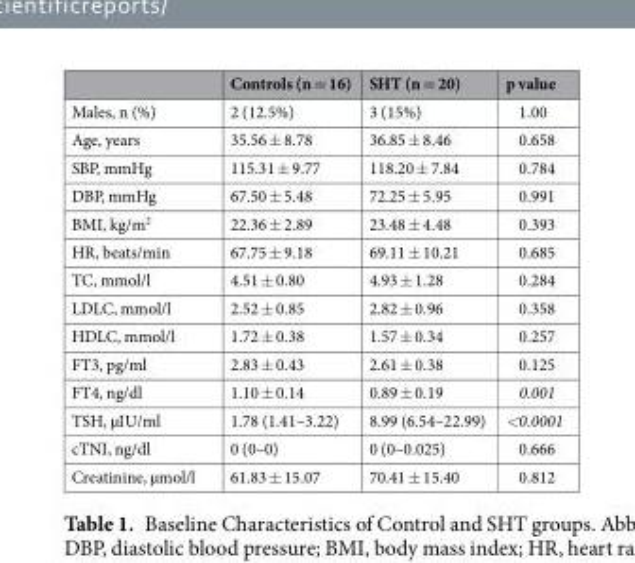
<table><thead><tr><td></td><td>Controls (n = 16)</td><td>SHT (n = 20)</td><td>p value</td></tr></thead><tbody><tr><td>Males, n (%)</td><td>2 (12.5%)</td><td>3 (15%)</td><td>1.00</td></tr><tr><td>Age, years</td><td>35.56 ± 8.78</td><td>36.85 ± 8.46</td><td>0.658</td></tr><tr><td>SBP, mmHg</td><td>115.31 ± 9.77</td><td>118.20 ± 7.84</td><td>0.784</td></tr><tr><td>DBP, mmHg</td><td>67.50 ± 5.48</td><td>72.25 ± 5.95</td><td>0.991</td></tr><tr><td>BMI, kg/m<sup>2</sup></td><td>22.36 ± 2.89</td><td>23.48 ± 4.48</td><td>0.393</td></tr><tr><td>HR, beats/min</td><td>67.75 ± 9.18</td><td>69.11 ± 10.21</td><td>0.685</td></tr><tr><td>TC, mmol/l</td><td>4.51 ± 0.80</td><td>4.93 ± 1.28</td><td>0.284</td></tr><tr><td>LDLC, mmol/l</td><td>2.52 ± 0.85</td><td>2.82 ± 0.96</td><td>0.358</td></tr><tr><td>HDLC, mmol/l</td><td>1.72 ± 0.38</td><td>1.57 ± 0.34</td><td>0.257</td></tr><tr><td>FT3, pg/ml</td><td>2.83 ± 0.43</td><td>2.61 ± 0.38</td><td>0.125</td></tr><tr><td>FT4, ng/dl</td><td>1.10 ± 0.14</td><td>0.89 ± 0.19</td><td>0.001</td></tr><tr><td>TSH, µIU/ml</td><td>1.78 (1.41–3.22)</td><td>8.99 (6.54–22.99)</td><td>&lt;0.0001</td></tr><tr><td>cTNI, ng/dl</td><td>0 (0–0)</td><td>0 (0–0.025)</td><td>0.666</td></tr><tr><td>Creatinine, µmol/l</td><td>61.83 ± 15.07</td><td>70.41 ± 15.40</td><td>0.812</td></tr></tbody></table>